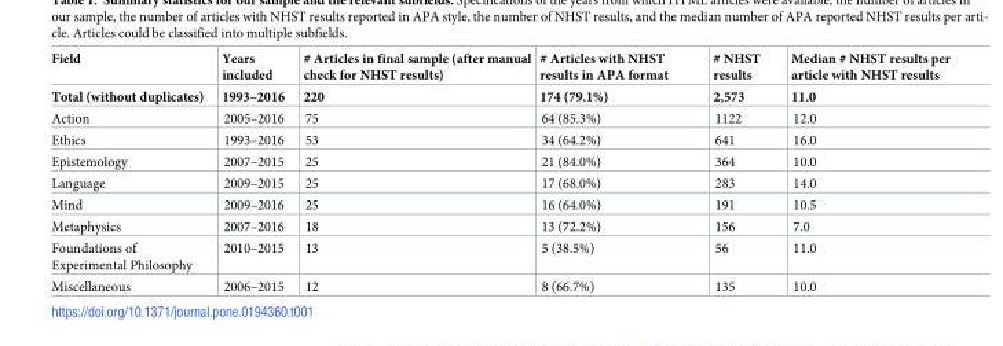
<table><thead><tr><td rowspan="2">Field Total (without duplicates)</td><td rowspan="2">Years included 1993–2016</td><td rowspan="2"># Articles in final sample (after manual check for NHST results) 220</td><td rowspan="2"># Articles with NHST results in APA format 174 (79.1%)</td><td rowspan="2"># NHST results 2,573</td><td rowspan="2">Median # NHST results per article with NHST results 11.0</td></tr><tr></tr></thead><tbody><tr><td>Action</td><td>2005–2016</td><td>75</td><td>64 (85.3%)</td><td>1122</td><td>12.0</td></tr><tr><td>Ethics</td><td>1993–2016</td><td>53</td><td>34 (64.2%)</td><td>641</td><td>16.0</td></tr><tr><td>Epistemology</td><td>2007–2015</td><td>25</td><td>21 (84.0%)</td><td>364</td><td>10.0</td></tr><tr><td>Language</td><td>2009–2015</td><td>25</td><td>17 (68.0%)</td><td>283</td><td>14.0</td></tr><tr><td>Mind</td><td>2009–2016</td><td>25</td><td>16 (64.0%)</td><td>191</td><td>10.5</td></tr><tr><td>Metaphysics</td><td>2007–2016</td><td>18</td><td>13 (72.2%)</td><td>156</td><td>7.0</td></tr><tr><td>Foundations of Experimental Philosophy</td><td>2010–2015</td><td>13</td><td>5 (38.5%)</td><td>56</td><td>11.0</td></tr><tr><td>Miscellaneous</td><td>2006–2015</td><td>12</td><td>8 (66.7%)</td><td>135</td><td>10.0</td></tr></tbody></table>